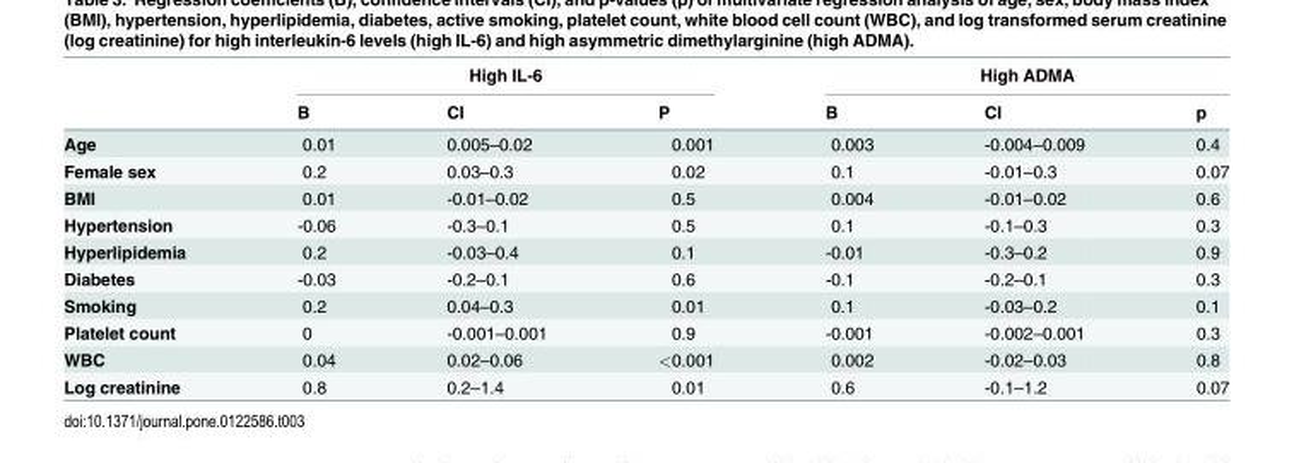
<table><thead><tr><td rowspan="2"></td><td colspan="3">High IL-6</td><td colspan="3">High ADMA</td></tr><tr><td>B</td><td>CI</td><td>P</td><td>B</td><td>CI</td><td>p</td></tr></thead><tbody><tr><td>Age</td><td>0.01</td><td>0.005–0.02</td><td>0.001</td><td>0.003</td><td>-0.004–0.009</td><td>0.4</td></tr><tr><td>Female sex</td><td>0.2</td><td>0.03–0.3</td><td>0.02</td><td>0.1</td><td>-0.01–0.3</td><td>0.07</td></tr><tr><td>BMI</td><td>0.01</td><td>-0.01–0.02</td><td>0.5</td><td>0.004</td><td>-0.01–0.02</td><td>0.6</td></tr><tr><td>Hypertension</td><td>-0.06</td><td>-0.3–0.1</td><td>0.5</td><td>0.1</td><td>-0.1–0.3</td><td>0.3</td></tr><tr><td>Hyperlipidemia</td><td>0.2</td><td>-0.03–0.4</td><td>0.1</td><td>-0.01</td><td>-0.3–0.2</td><td>0.9</td></tr><tr><td>Diabetes</td><td>-0.03</td><td>-0.2–0.1</td><td>0.6</td><td>-0.1</td><td>-0.2–0.1</td><td>0.3</td></tr><tr><td>Smoking</td><td>0.2</td><td>0.04–0.3</td><td>0.01</td><td>0.1</td><td>-0.03–0.2</td><td>0.1</td></tr><tr><td>Platelet count</td><td>0</td><td>-0.001–0.001</td><td>0.9</td><td>-0.001</td><td>-0.002–0.001</td><td>0.3</td></tr><tr><td>WBC</td><td>0.04</td><td>0.02–0.06</td><td>&lt;0.001</td><td>0.002</td><td>-0.02–0.03</td><td>0.8</td></tr><tr><td>Log creatinine</td><td>0.8</td><td>0.2–1.4</td><td>0.01</td><td>0.6</td><td>-0.1–1.2</td><td>0.07</td></tr></tbody></table>